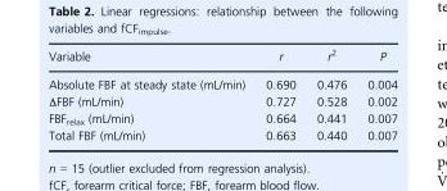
<table><thead><tr><td>Variable</td><td>r</td><td>r<sup>2</sup></td><td>P</td></tr></thead><tbody><tr><td>Absolute FBF at steady state (mL/min)</td><td>0.690</td><td>0.476</td><td>0.004</td></tr><tr><td>ΔFBF (mL/min)</td><td>0.727</td><td>0.528</td><td>0.002</td></tr><tr><td>FBF<sub>relax</sub> (mL/min)</td><td>0.664</td><td>0.441</td><td>0.007</td></tr><tr><td>Total FBF (mL/min)</td><td>0.663</td><td>0.440</td><td>0.007</td></tr></tbody></table>